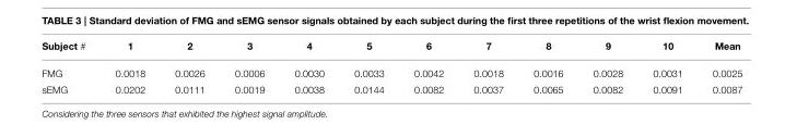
<table><thead><tr><td>Subject #</td><td>1</td><td>2</td><td>3</td><td>4</td><td>5</td><td>6</td><td>7</td><td>8</td><td>9</td><td>10</td><td>Mean</td></tr></thead><tbody><tr><td>FMG</td><td>0.0018</td><td>0.0026</td><td>0.0006</td><td>0.0030</td><td>0.0033</td><td>0.0042</td><td>0.0018</td><td>0.0016</td><td>0.0028</td><td>0.0031</td><td>0.0025</td></tr><tr><td>sEMG</td><td>0.0202</td><td>0.0111</td><td>0.0019</td><td>0.0038</td><td>0.0144</td><td>0.0082</td><td>0.0037</td><td>0.0065</td><td>0.0082</td><td>0.0091</td><td>0.0087</td></tr></tbody></table>